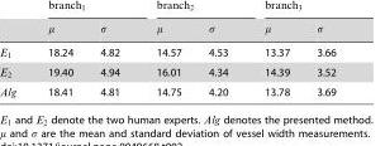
<table><tbody><tr><td>18.24</td><td>4.82</td><td>14.57</td><td>4.53</td><td>13.37</td><td>3.66</td></tr><tr><td>19.40</td><td>4.94</td><td>16.01</td><td>4.34</td><td>14.39</td><td>3.52</td></tr><tr><td>18.41</td><td>4.81</td><td>14.75</td><td>4.20</td><td>13.78</td><td>3.69</td></tr></tbody></table>